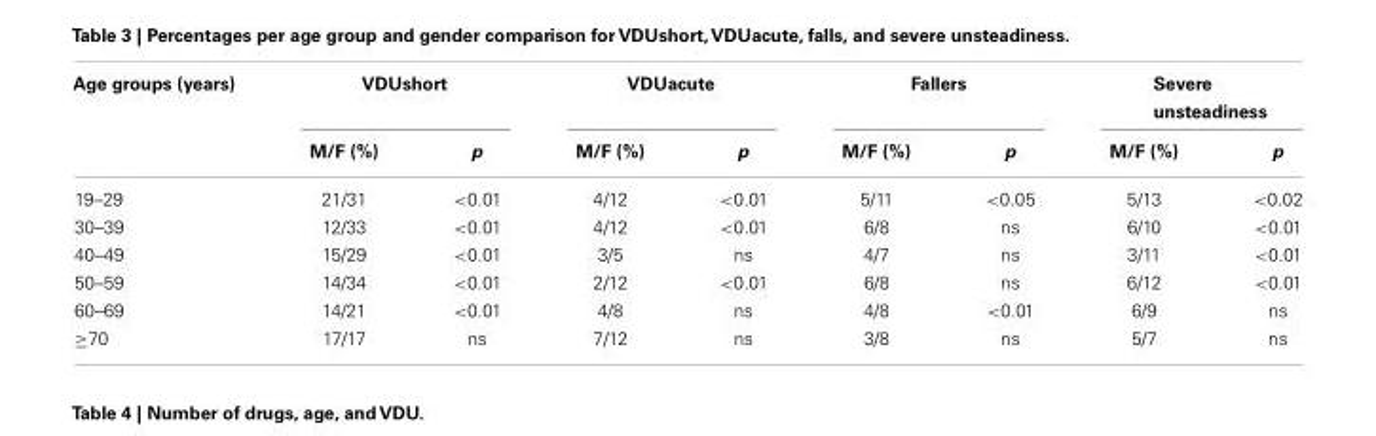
<table><thead><tr><td rowspan="2">Age groups (years)</td><td colspan="2">VDUshort</td><td colspan="2">VDUacute</td><td colspan="2">Fallers</td><td colspan="2">Severe unsteadiness</td></tr><tr><td>M/F (%)</td><td>p</td><td>M/F (%)</td><td>p</td><td>M/F (%)</td><td>p</td><td>M/F (%)</td><td>p</td></tr></thead><tbody><tr><td>19–29</td><td>21/31</td><td>&lt;0.01</td><td>4/12</td><td>&lt;0.01</td><td>5/11</td><td>&lt;0.05</td><td>5/13</td><td>&lt;0.02</td></tr><tr><td>30–39</td><td>12/33</td><td>&lt;0.01</td><td>4/12</td><td>&lt;0.01</td><td>6/8</td><td>ns</td><td>6/10</td><td>&lt;0.01</td></tr><tr><td>40–49</td><td>15/29</td><td>&lt;0.01</td><td>3/5</td><td>ns</td><td>4/7</td><td>ns</td><td>3/11</td><td>&lt;0.01</td></tr><tr><td>50–59</td><td>14/34</td><td>&lt;0.01</td><td>2/12</td><td>&lt;0.01</td><td>6/8</td><td>ns</td><td>6/12</td><td>&lt;0.01</td></tr><tr><td>60–69</td><td>14/21</td><td>&lt;0.01</td><td>4/8</td><td>ns</td><td>4/8</td><td>&lt;0.01</td><td>6/9</td><td>ns</td></tr><tr><td>≥70</td><td>17/17</td><td>ns</td><td>7/12</td><td>ns</td><td>3/8</td><td>ns</td><td>5/7</td><td>ns</td></tr></tbody></table>